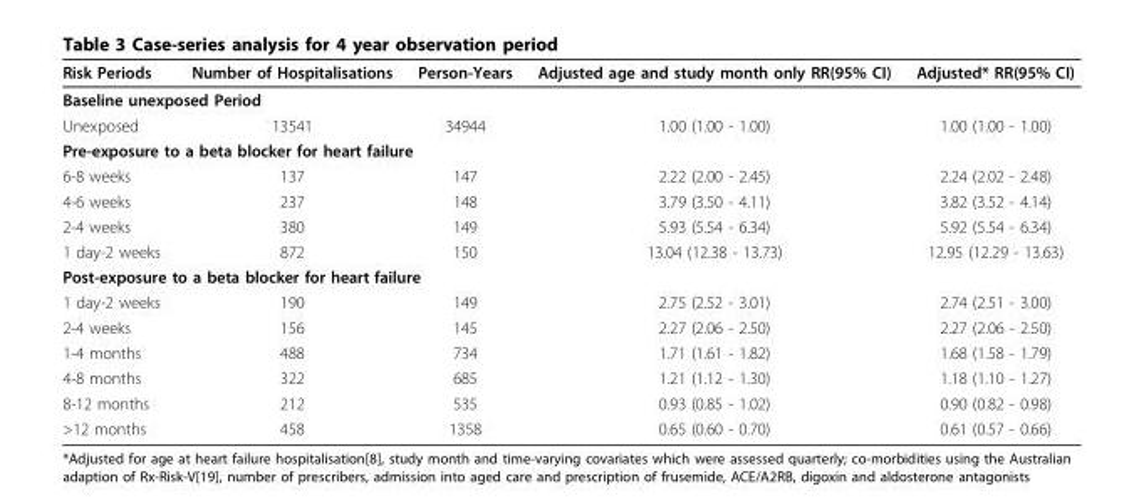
<table><thead><tr><td>Risk Periods</td><td>Number of Hospitalisations</td><td>Person-Years</td><td>Adjusted age and study month only RR(95% CI)</td><td>Adjusted* RR(95% CI)</td></tr></thead><tbody><tr><td colspan="5">Baseline unexposed Period</td></tr><tr><td>Unexposed</td><td>13541</td><td>34944</td><td>1.00 (1.00 - 1.00)</td><td>1.00 (1.00 - 1.00)</td></tr><tr><td colspan="5">Pre-exposure to a beta blocker for heart failure</td></tr><tr><td>6-8 weeks</td><td>137</td><td>147</td><td>2.22 (2.00 - 2.45)</td><td>2.24 (2.02 - 2.48)</td></tr><tr><td>4-6 weeks</td><td>237</td><td>148</td><td>3.79 (3.50 - 4.11)</td><td>3.82 (3.52 - 4.14)</td></tr><tr><td>2-4 weeks</td><td>380</td><td>149</td><td>5.93 (5.54 - 6.34)</td><td>5.92 (5.54 - 6.34)</td></tr><tr><td>1 day-2 weeks</td><td>872</td><td>150</td><td>13.04 (12.38 - 13.73)</td><td>12.95 (12.29 - 13.63)</td></tr><tr><td colspan="5">Post-exposure to a beta blocker for heart failure</td></tr><tr><td>1 day-2 weeks</td><td>190</td><td>149</td><td>2.75 (2.52 - 3.01)</td><td>2.74 (2.51 - 3.00)</td></tr><tr><td>2-4 weeks</td><td>156</td><td>145</td><td>2.27 (2.06 - 2.50)</td><td>2.27 (2.06 - 2.50)</td></tr><tr><td>1-4 months</td><td>488</td><td>734</td><td>1.71 (1.61 - 1.82)</td><td>1.68 (1.58 - 1.79)</td></tr><tr><td>4-8 months</td><td>322</td><td>685</td><td>1.21 (1.12 - 1.30)</td><td>1.18 (1.10 - 1.27)</td></tr><tr><td>8-12 months</td><td>212</td><td>535</td><td>0.93 (0.85 - 1.02)</td><td>0.90 (0.82 - 0.98)</td></tr><tr><td>&gt;12 months</td><td>458</td><td>1358</td><td>0.65 (0.60 - 0.70)</td><td>0.61 (0.57 - 0.66)</td></tr></tbody></table>